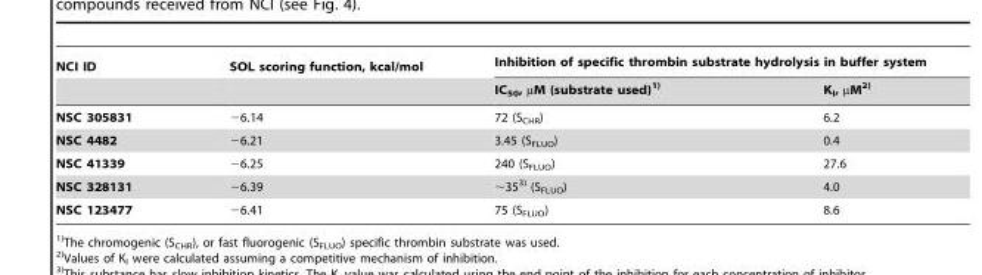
<table><thead><tr><td rowspan="2">NCI ID</td><td rowspan="2">SOL scoring function, kcal/mol</td><td colspan="2">Inhibition of specific thrombin substrate hydrolysis in buffer system</td></tr><tr><td>IC<sub>50</sub>, µM (substrate used)1)</td><td>K<sub>I</sub>, µM2)</td></tr></thead><tbody><tr><td>NSC 305831</td><td>−6.14</td><td>72 (S<sub>CHR</sub>)</td><td>6.2</td></tr><tr><td>NSC 4482</td><td>−6.21</td><td>3.45 (S<sub>FLUO</sub>)</td><td>0.4</td></tr><tr><td>NSC 41339</td><td>−6.25</td><td>240 (S<sub>FLUO</sub>)</td><td>27.6</td></tr><tr><td>NSC 328131</td><td>−6.39</td><td>∼353) (S<sub>FLUO</sub>)</td><td>4.0</td></tr><tr><td>NSC 123477</td><td>−6.41</td><td>75 (S<sub>FLUO</sub>)</td><td>8.6</td></tr></tbody></table>